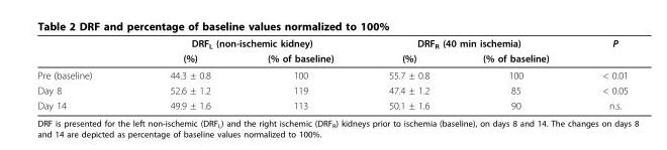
<table><thead><tr><td rowspan="2"></td><td colspan="2">DRF<sub>L</sub> (non-ischemic kidney)</td><td colspan="2">DRF<sub>R</sub> (40 min ischemia)</td><td rowspan="2">P</td></tr><tr><td>(%)</td><td>(% of baseline)</td><td>(%)</td><td>(% of baseline)</td></tr></thead><tbody><tr><td>Pre (baseline)</td><td>44.3 ± 0.8</td><td>100</td><td>55.7 ± 0.8</td><td>100</td><td>&lt; 0.01</td></tr><tr><td>Day 8</td><td>52.6 ± 1.2</td><td>119</td><td>47.4 ± 1.2</td><td>85</td><td>&lt; 0.05</td></tr><tr><td>Day 14</td><td>49.9 ± 1.6</td><td>113</td><td>50.1 ± 1.6</td><td>90</td><td>n.s.</td></tr></tbody></table>